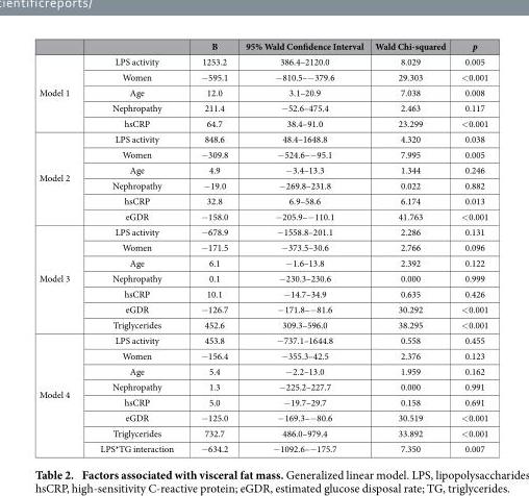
<table><thead><tr><td></td><td></td><td>B</td><td>95% Wald Confidence Interval</td><td>Wald Chi-squared</td><td>p</td></tr></thead><tbody><tr><td rowspan="5">Model 1</td><td>LPS activity</td><td>1253.2</td><td>386.4–2120.0</td><td>8.029</td><td>0.005</td></tr><tr><td>Women</td><td>− 595.1</td><td>− 810.5–− 379.6</td><td>29.303</td><td>&lt; 0.001</td></tr><tr><td>Age</td><td>12.0</td><td>3.1–20.9</td><td>7.038</td><td>0.008</td></tr><tr><td>Nephropathy</td><td>211.4</td><td>− 52.6–475.4</td><td>2.463</td><td>0.117</td></tr><tr><td>hsCRP</td><td>64.7</td><td>38.4–91.0</td><td>23.299</td><td>&lt; 0.001</td></tr><tr><td rowspan="6">Model 2</td><td>LPS activity</td><td>848.6</td><td>48.4–1648.8</td><td>4.320</td><td>0.038</td></tr><tr><td>Women</td><td>− 309.8</td><td>− 524.6–− 95.1</td><td>7.995</td><td>0.005</td></tr><tr><td>Age</td><td>4.9</td><td>− 3.4–13.3</td><td>1.344</td><td>0.246</td></tr><tr><td>Nephropathy</td><td>− 19.0</td><td>− 269.8–231.8</td><td>0.022</td><td>0.882</td></tr><tr><td>hsCRP</td><td>32.8</td><td>6.9–58.6</td><td>6.174</td><td>0.013</td></tr><tr><td>eGDR</td><td>− 158.0</td><td>− 205.9–− 110.1</td><td>41.763</td><td>&lt; 0.001</td></tr><tr><td rowspan="7">Model 3</td><td>LPS activity</td><td>− 678.9</td><td>− 1558.8–201.1</td><td>2.286</td><td>0.131</td></tr><tr><td>Women</td><td>− 171.5</td><td>− 373.5–30.6</td><td>2.766</td><td>0.096</td></tr><tr><td>Age</td><td>6.1</td><td>− 1.6–13.8</td><td>2.392</td><td>0.122</td></tr><tr><td>Nephropathy</td><td>0.1</td><td>− 230.3–230.6</td><td>0.000</td><td>0.999</td></tr><tr><td>hsCRP</td><td>10.1</td><td>− 14.7–34.9</td><td>0.635</td><td>0.426</td></tr><tr><td>eGDR</td><td>− 126.7</td><td>− 171.8–− 81.6</td><td>30.292</td><td>&lt; 0.001</td></tr><tr><td>Triglycerides</td><td>452.6</td><td>309.3–596.0</td><td>38.295</td><td>&lt; 0.001</td></tr><tr><td rowspan="8">Model 4</td><td>LPS activity</td><td>453.8</td><td>− 737.1–1644.8</td><td>0.558</td><td>0.455</td></tr><tr><td>Women</td><td>− 156.4</td><td>− 355.3–42.5</td><td>2.376</td><td>0.123</td></tr><tr><td>Age</td><td>5.4</td><td>− 2.2–13.0</td><td>1.959</td><td>0.162</td></tr><tr><td>Nephropathy</td><td>1.3</td><td>− 225.2–227.7</td><td>0.000</td><td>0.991</td></tr><tr><td>hsCRP</td><td>5.0</td><td>− 19.7–29.7</td><td>0.158</td><td>0.691</td></tr><tr><td>eGDR</td><td>− 125.0</td><td>− 169.3–− 80.6</td><td>30.519</td><td>&lt; 0.001</td></tr><tr><td>Triglycerides</td><td>732.7</td><td>486.0–979.4</td><td>33.892</td><td>&lt; 0.001</td></tr><tr><td>LPS*TG interaction</td><td>− 634.2</td><td>− 1092.6–− 175.7</td><td>7.350</td><td>0.007</td></tr></tbody></table>